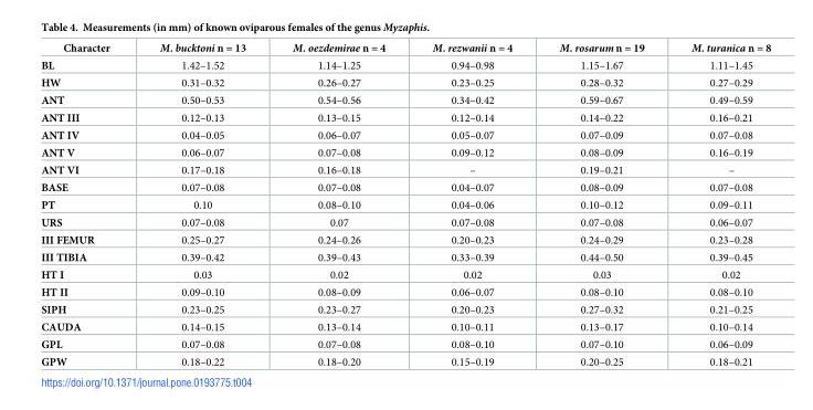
<table><thead><tr><td>Character</td><td>M. bucktoni n = 13</td><td>M. oezdemirae n = 4</td><td>M. rezwanii n = 4</td><td>M. rosarum n = 19</td><td>M. turanica n = 8</td></tr></thead><tbody><tr><td>BL</td><td>1.42–1.52</td><td>1.14–1.25</td><td>0.94–0.98</td><td>1.15–1.67</td><td>1.11–1.45</td></tr><tr><td>HW</td><td>0.31–0.32</td><td>0.26–0.27</td><td>0.23–0.25</td><td>0.28–0.32</td><td>0.27–0.29</td></tr><tr><td>ANT</td><td>0.50–0.53</td><td>0.54–0.56</td><td>0.34–0.42</td><td>0.59–0.67</td><td>0.49–0.59</td></tr><tr><td>ANT III</td><td>0.12–0.13</td><td>0.13–0.15</td><td>0.12–0.14</td><td>0.14–0.22</td><td>0.16–0.21</td></tr><tr><td>ANT IV</td><td>0.04–0.05</td><td>0.06–0.07</td><td>0.05–0.07</td><td>0.07–0.09</td><td>0.07–0.08</td></tr><tr><td>ANT V</td><td>0.06–0.07</td><td>0.07–0.08</td><td>0.09–0.12</td><td>0.08–0.09</td><td>0.16–0.19</td></tr><tr><td>ANT VI</td><td>0.17–0.18</td><td>0.16–0.18</td><td>–</td><td>0.19–0.21</td><td>–</td></tr><tr><td>BASE</td><td>0.07–0.08</td><td>0.07–0.08</td><td>0.04–0.07</td><td>0.08–0.09</td><td>0.07–0.08</td></tr><tr><td>PT</td><td>0.10</td><td>0.08–0.10</td><td>0.04–0.06</td><td>0.10–0.12</td><td>0.09–0.11</td></tr><tr><td>URS</td><td>0.07–0.08</td><td>0.07</td><td>0.07–0.08</td><td>0.07–0.08</td><td>0.06–0.07</td></tr><tr><td>III FEMUR</td><td>0.25–0.27</td><td>0.24–0.26</td><td>0.20–0.23</td><td>0.24–0.29</td><td>0.23–0.28</td></tr><tr><td>III TIBIA</td><td>0.39–0.42</td><td>0.39–0.43</td><td>0.33–0.39</td><td>0.44–0.50</td><td>0.39–0.45</td></tr><tr><td>HT I</td><td>0.03</td><td>0.02</td><td>0.02</td><td>0.03</td><td>0.02</td></tr><tr><td>HT II</td><td>0.09–0.10</td><td>0.08–0.09</td><td>0.06–0.07</td><td>0.08–0.10</td><td>0.08–0.10</td></tr><tr><td>SIPH</td><td>0.23–0.25</td><td>0.23–0.27</td><td>0.20–0.23</td><td>0.27–0.32</td><td>0.21–0.25</td></tr><tr><td>CAUDA</td><td>0.14–0.15</td><td>0.13–0.14</td><td>0.10–0.11</td><td>0.13–0.17</td><td>0.10–0.14</td></tr><tr><td>GPL</td><td>0.07–0.08</td><td>0.07–0.08</td><td>0.08–0.10</td><td>0.07–0.10</td><td>0.06–0.09</td></tr><tr><td>GPW</td><td>0.18–0.22</td><td>0.18–0.20</td><td>0.15–0.19</td><td>0.20–0.25</td><td>0.18–0.21</td></tr></tbody></table>